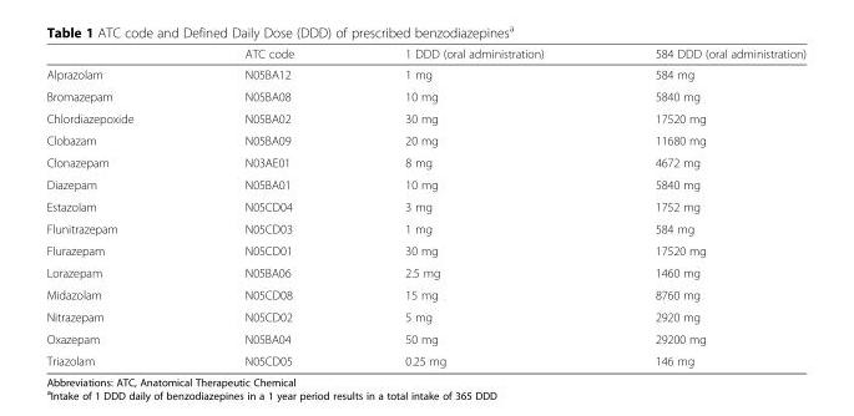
<table><thead><tr><td></td><td>ATC code</td><td>1 DDD (oral administration)</td><td>584 DDD (oral administration)</td></tr></thead><tbody><tr><td>Alprazolam</td><td>N05BA12</td><td>1 mg</td><td>584 mg</td></tr><tr><td>Bromazepam</td><td>N05BA08</td><td>10 mg</td><td>5840 mg</td></tr><tr><td>Chlordiazepoxide</td><td>N05BA02</td><td>30 mg</td><td>17520 mg</td></tr><tr><td>Clobazam</td><td>N05BA09</td><td>20 mg</td><td>11680 mg</td></tr><tr><td>Clonazepam</td><td>N03AE01</td><td>8 mg</td><td>4672 mg</td></tr><tr><td>Diazepam</td><td>N05BA01</td><td>10 mg</td><td>5840 mg</td></tr><tr><td>Estazolam</td><td>N05CD04</td><td>3 mg</td><td>1752 mg</td></tr><tr><td>Flunitrazepam</td><td>N05CD03</td><td>1 mg</td><td>584 mg</td></tr><tr><td>Flurazepam</td><td>N05CD01</td><td>30 mg</td><td>17520 mg</td></tr><tr><td>Lorazepam</td><td>N05BA06</td><td>2.5 mg</td><td>1460 mg</td></tr><tr><td>Midazolam</td><td>N05CD08</td><td>15 mg</td><td>8760 mg</td></tr><tr><td>Nitrazepam</td><td>N05CD02</td><td>5 mg</td><td>2920 mg</td></tr><tr><td>Oxazepam</td><td>N05BA04</td><td>50 mg</td><td>29200 mg</td></tr><tr><td>Triazolam</td><td>N05CD05</td><td>0.25 mg</td><td>146 mg</td></tr></tbody></table>